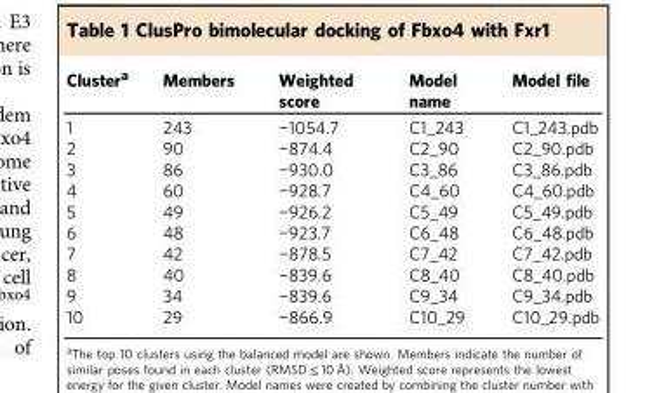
<table><thead><tr><td>Cluster<sup>a</sup></td><td>Members</td><td>Weighted score</td><td>Model name</td><td>Model file</td></tr></thead><tbody><tr><td>1</td><td>243</td><td>−1054.7</td><td>C1_243</td><td>C1_243.pdb</td></tr><tr><td>2</td><td>90</td><td>−874.4</td><td>C2_90</td><td>C2_90.pdb</td></tr><tr><td>3</td><td>86</td><td>−930.0</td><td>C3_86</td><td>C3_86.pdb</td></tr><tr><td>4</td><td>60</td><td>−928.7</td><td>C4_60</td><td>C4_60.pdb</td></tr><tr><td>5</td><td>49</td><td>−926.2</td><td>C5_49</td><td>C5_49.pdb</td></tr><tr><td>6</td><td>48</td><td>−923.7</td><td>C6_48</td><td>C6_48.pdb</td></tr><tr><td>7</td><td>42</td><td>−878.5</td><td>C7_42</td><td>C7_42.pdb</td></tr><tr><td>8</td><td>40</td><td>−839.6</td><td>C8_40</td><td>C8_40.pdb</td></tr><tr><td>9</td><td>34</td><td>−839.6</td><td>C9_34</td><td>C9_34.pdb</td></tr><tr><td>10</td><td>29</td><td>−866.9</td><td>C10_29</td><td>C10_29.pdb</td></tr></tbody></table>